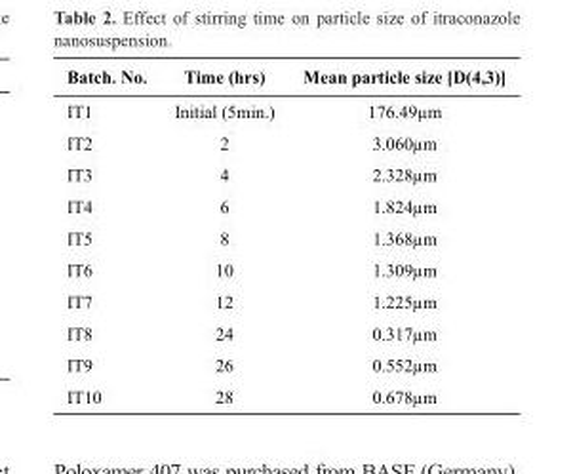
<table><thead><tr><td>Batch. No.</td><td>Time (hrs)</td><td>Mean particle size [D(4,3)]</td></tr></thead><tbody><tr><td>IT1</td><td>Initial (5min.)</td><td>176.49µm</td></tr><tr><td>IT2</td><td>2</td><td>3.060µm</td></tr><tr><td>IT3</td><td>4</td><td>2.328µm</td></tr><tr><td>IT4</td><td>6</td><td>1.824µm</td></tr><tr><td>IT5</td><td>8</td><td>1.368µm</td></tr><tr><td>IT6</td><td>10</td><td>1.309µm</td></tr><tr><td>IT7</td><td>12</td><td>1.225µm</td></tr><tr><td>IT8</td><td>24</td><td>0.317µm</td></tr><tr><td>IT9</td><td>26</td><td>0.552µm</td></tr><tr><td>IT10</td><td>28</td><td>0.678µm</td></tr></tbody></table>